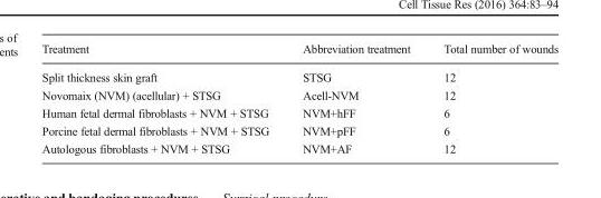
<table><thead><tr><td>Treatment</td><td>Abbreviation treatment</td><td>Total number of wounds</td></tr></thead><tbody><tr><td>Split thickness skin graft</td><td>STSG</td><td>12</td></tr><tr><td>Novomaix (NVM) (acellular) + STSG</td><td>Acell-NVM</td><td>12</td></tr><tr><td>Human fetal dermal fibroblasts + NVM + STSG</td><td>NVM+hFF</td><td>6</td></tr><tr><td>Porcine fetal dermal fibroblasts + NVM + STSG</td><td>NVM+pFF</td><td>6</td></tr><tr><td>Autologous fibroblasts + NVM + STSG</td><td>NVM+AF</td><td>12</td></tr></tbody></table>